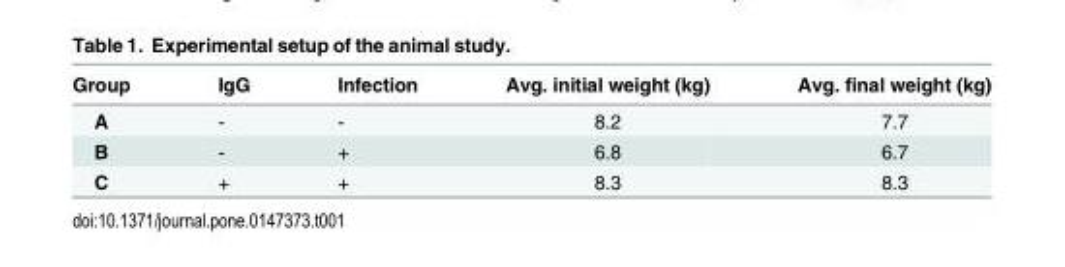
<table><thead><tr><td>Group</td><td>IgG</td><td>Infection</td><td>Avg. initial weight (kg)</td><td>Avg. final weight (kg)</td></tr></thead><tbody><tr><td>A</td><td>-</td><td>-</td><td>8.2</td><td>7.7</td></tr><tr><td>B</td><td>-</td><td>+</td><td>6.8</td><td>6.7</td></tr><tr><td>C</td><td>+</td><td>+</td><td>8.3</td><td>8.3</td></tr></tbody></table>